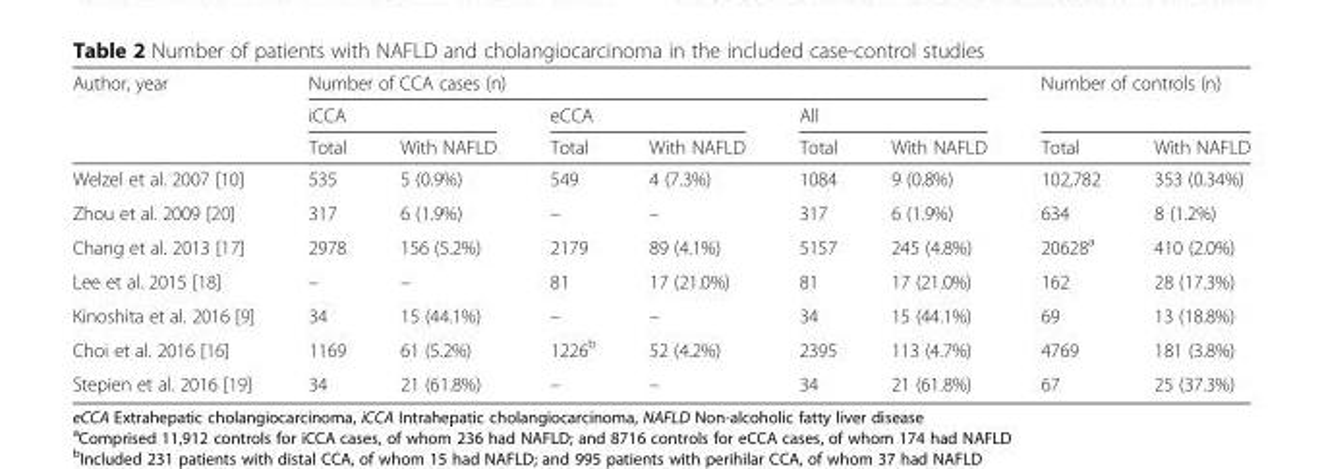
<table><thead><tr><td rowspan="3">Author, year</td><td colspan="6">Number of CCA cases (n)</td><td rowspan="2" colspan="2">Number of controls (n)</td></tr><tr><td colspan="2">iCCA</td><td colspan="2">eCCA</td><td colspan="2">All</td></tr><tr><td>Total</td><td>With NAFLD</td><td>Total</td><td>With NAFLD</td><td>Total</td><td>With NAFLD</td><td>Total</td><td>With NAFLD</td></tr></thead><tbody><tr><td>Welzel et al. 2007 [10]</td><td>535</td><td>5 (0.9%)</td><td>549</td><td>4 (7.3%)</td><td>1084</td><td>9 (0.8%)</td><td>102,782</td><td>353 (0.34%)</td></tr><tr><td>Zhou et al. 2009 [20]</td><td>317</td><td>6 (1.9%)</td><td>–</td><td>–</td><td>317</td><td>6 (1.9%)</td><td>634</td><td>8 (1.2%)</td></tr><tr><td>Chang et al. 2013 [17]</td><td>2978</td><td>156 (5.2%)</td><td>2179</td><td>89 (4.1%)</td><td>5157</td><td>245 (4.8%)</td><td>20628<sup>a</sup></td><td>410 (2.0%)</td></tr><tr><td>Lee et al. 2015 [18]</td><td>–</td><td>–</td><td>81</td><td>17 (21.0%)</td><td>81</td><td>17 (21.0%)</td><td>162</td><td>28 (17.3%)</td></tr><tr><td>Kinoshita et al. 2016 [9]</td><td>34</td><td>15 (44.1%)</td><td>–</td><td>–</td><td>34</td><td>15 (44.1%)</td><td>69</td><td>13 (18.8%)</td></tr><tr><td>Choi et al. 2016 [16]</td><td>1169</td><td>61 (5.2%)</td><td>1226<sup>b</sup></td><td>52 (4.2%)</td><td>2395</td><td>113 (4.7%)</td><td>4769</td><td>181 (3.8%)</td></tr><tr><td>Stepien et al. 2016 [19]</td><td>34</td><td>21 (61.8%)</td><td>–</td><td>–</td><td>34</td><td>21 (61.8%)</td><td>67</td><td>25 (37.3%)</td></tr></tbody></table>